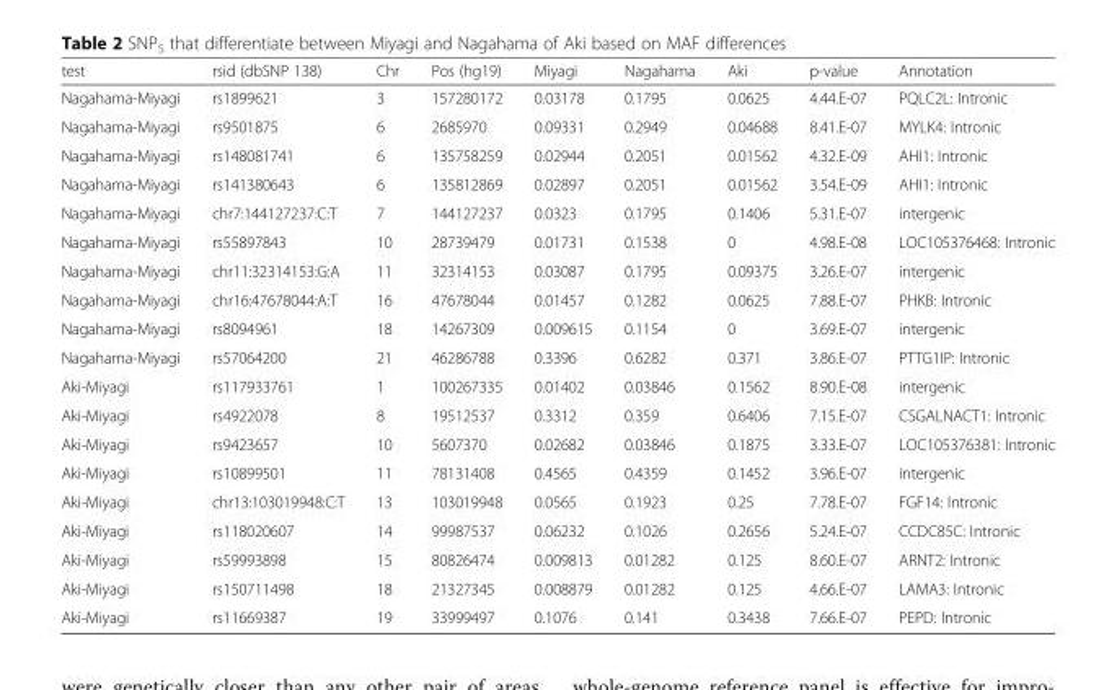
<table><thead><tr><td>test</td><td>rsid (dbSNP 138)</td><td>Chr</td><td>Pos (hg19)</td><td>Miyagi</td><td>Nagahama</td><td>Aki</td><td>p-value</td><td>Annotation</td></tr></thead><tbody><tr><td>Nagahama-Miyagi</td><td>rs1899621</td><td>3</td><td>157280172</td><td>0.03178</td><td>0.1795</td><td>0.0625</td><td>4.44.E-07</td><td>PQLC2L: Intronic</td></tr><tr><td>Nagahama-Miyagi</td><td>rs9501875</td><td>6</td><td>2685970</td><td>0.09331</td><td>0.2949</td><td>0.04688</td><td>8.41.E-07</td><td>MYLK4: Intronic</td></tr><tr><td>Nagahama-Miyagi</td><td>rs148081741</td><td>6</td><td>135758259</td><td>0.02944</td><td>0.2051</td><td>0.01562</td><td>4.32.E-09</td><td>AHI1: Intronic</td></tr><tr><td>Nagahama-Miyagi</td><td>rs141380643</td><td>6</td><td>135812869</td><td>0.02897</td><td>0.2051</td><td>0.01562</td><td>3.54.E-09</td><td>AHI1: Intronic</td></tr><tr><td>Nagahama-Miyagi</td><td>chr7:144127237:C:T</td><td>7</td><td>144127237</td><td>0.0323</td><td>0.1795</td><td>0.1406</td><td>5.31.E-07</td><td>intergenic</td></tr><tr><td>Nagahama-Miyagi</td><td>rs55897843</td><td>10</td><td>28739479</td><td>0.01731</td><td>0.1538</td><td>0</td><td>4.98.E-08</td><td>LOC105376468: Intronic</td></tr><tr><td>Nagahama-Miyagi</td><td>chr11:32314153:G:A</td><td>11</td><td>32314153</td><td>0.03087</td><td>0.1795</td><td>0.09375</td><td>3.26.E-07</td><td>intergenic</td></tr><tr><td>Nagahama-Miyagi</td><td>chr16:47678044:A:T</td><td>16</td><td>47678044</td><td>0.01457</td><td>0.1282</td><td>0.0625</td><td>7.88.E-07</td><td>PHKB: Intronic</td></tr><tr><td>Nagahama-Miyagi</td><td>rs8094961</td><td>18</td><td>14267309</td><td>0.009615</td><td>0.1154</td><td>0</td><td>3.69.E-07</td><td>intergenic</td></tr><tr><td>Nagahama-Miyagi</td><td>rs57064200</td><td>21</td><td>46286788</td><td>0.3396</td><td>0.6282</td><td>0.371</td><td>3.86.E-07</td><td>PTTG1IP: Intronic</td></tr><tr><td>Aki-Miyagi</td><td>rs117933761</td><td>1</td><td>100267335</td><td>0.01402</td><td>0.03846</td><td>0.1562</td><td>8.90.E-08</td><td>intergenic</td></tr><tr><td>Aki-Miyagi</td><td>rs4922078</td><td>8</td><td>19512537</td><td>0.3312</td><td>0.359</td><td>0.6406</td><td>7.15.E-07</td><td>CSGALNACT1: Intronic</td></tr><tr><td>Aki-Miyagi</td><td>rs9423657</td><td>10</td><td>5607370</td><td>0.02682</td><td>0.03846</td><td>0.1875</td><td>3.33.E-07</td><td>LOC105376381: Intronic</td></tr><tr><td>Aki-Miyagi</td><td>rs10899501</td><td>11</td><td>78131408</td><td>0.4565</td><td>0.4359</td><td>0.1452</td><td>3.96.E-07</td><td>intergenic</td></tr><tr><td>Aki-Miyagi</td><td>chr13:103019948:C:T</td><td>13</td><td>103019948</td><td>0.0565</td><td>0.1923</td><td>0.25</td><td>7.78.E-07</td><td>FGF14: Intronic</td></tr><tr><td>Aki-Miyagi</td><td>rs118020607</td><td>14</td><td>99987537</td><td>0.06232</td><td>0.1026</td><td>0.2656</td><td>5.24.E-07</td><td>CCDC85C: Intronic</td></tr><tr><td>Aki-Miyagi</td><td>rs59993898</td><td>15</td><td>80826474</td><td>0.009813</td><td>0.01282</td><td>0.125</td><td>8.60.E-07</td><td>ARNT2: Intronic</td></tr><tr><td>Aki-Miyagi</td><td>rs150711498</td><td>18</td><td>21327345</td><td>0.008879</td><td>0.01282</td><td>0.125</td><td>4.66.E-07</td><td>LAMA3: Intronic</td></tr><tr><td>Aki-Miyagi</td><td>rs11669387</td><td>19</td><td>33999497</td><td>0.1076</td><td>0.141</td><td>0.3438</td><td>7.66.E-07</td><td>PEPD: Intronic</td></tr></tbody></table>